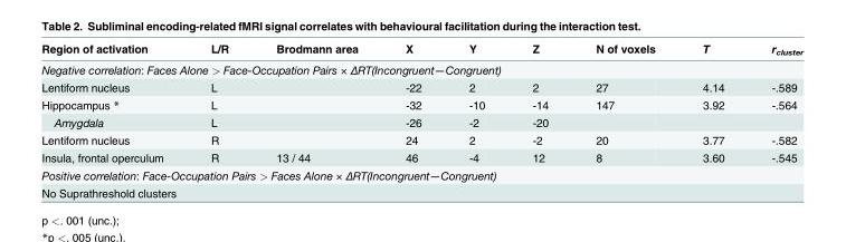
<table><thead><tr><td>Region of activation</td><td>L/R</td><td>Brodmann area</td><td>X</td><td>Y</td><td>Z</td><td>N of voxels</td><td>T</td><td>r<sub>cluster</sub></td></tr></thead><tbody><tr><td colspan="9">Negative correlation: Faces Alone &gt; Face-Occupation Pairs × ΔRT(Incongruent—Congruent)</td></tr><tr><td>Lentiform nucleus</td><td>L</td><td></td><td>-22</td><td>2</td><td>2</td><td>27</td><td>4.14</td><td>-.589</td></tr><tr><td>Hippocampus *</td><td>L</td><td></td><td>-32</td><td>-10</td><td>-14</td><td>147</td><td>3.92</td><td>-.564</td></tr><tr><td>Amygdala</td><td>L</td><td></td><td>-26</td><td>-2</td><td>-20</td><td></td><td></td><td></td></tr><tr><td>Lentiform nucleus</td><td>R</td><td></td><td>24</td><td>2</td><td>-2</td><td>20</td><td>3.77</td><td>-.582</td></tr><tr><td>Insula, frontal operculum</td><td>R</td><td>13 / 44</td><td>46</td><td>-4</td><td>12</td><td>8</td><td>3.60</td><td>-.545</td></tr><tr><td colspan="9">Positive correlation: Face-Occupation Pairs &gt; Faces Alone × ΔRT(Incongruent—Congruent)</td></tr><tr><td colspan="9">No Suprathreshold clusters</td></tr></tbody></table>